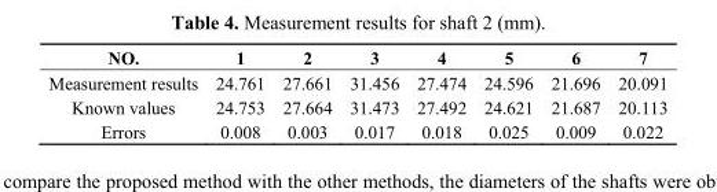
<table><thead><tr><td>NO.</td><td>1</td><td>2</td><td>3</td><td>4</td><td>5</td><td>6</td><td>7</td></tr></thead><tbody><tr><td>Measurement results</td><td>24.761</td><td>27.661</td><td>31.456</td><td>27.474</td><td>24.596</td><td>21.696</td><td>20.091</td></tr><tr><td>Known values</td><td>24.753</td><td>27.664</td><td>31.473</td><td>27.492</td><td>24.621</td><td>21.687</td><td>20.113</td></tr><tr><td>Errors</td><td>0.008</td><td>0.003</td><td>0.017</td><td>0.018</td><td>0.025</td><td>0.009</td><td>0.022</td></tr></tbody></table>